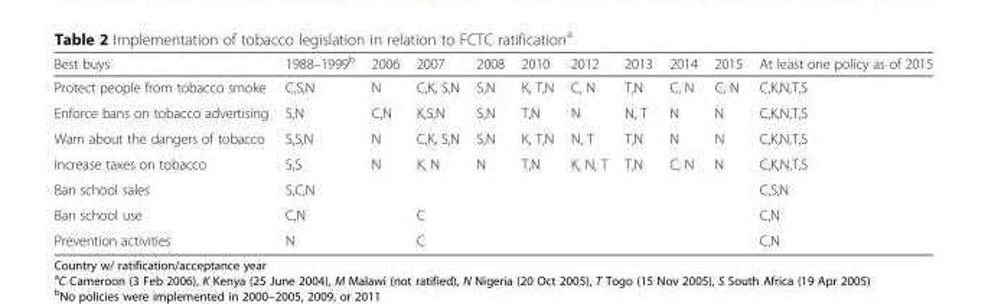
<table><thead><tr><td>Best buys</td><td>1988–1999<sup>b</sup></td><td>2006</td><td>2007</td><td>2008</td><td>2010</td><td>2012</td><td>2013</td><td>2014</td><td>2015</td><td>At least one policy as of 2015</td></tr></thead><tbody><tr><td>Protect people from tobacco smoke</td><td>C,S,N</td><td>N</td><td>C,K, S,N</td><td>S,N</td><td>K, T,N</td><td>C, N</td><td>T,N</td><td>C, N</td><td>C, N</td><td>C,K,N,T,S</td></tr><tr><td>Enforce bans on tobacco advertising</td><td>S,N</td><td>C,N</td><td>K,S,N</td><td>S,N</td><td>T,N</td><td>N</td><td>N, T</td><td>N</td><td>N</td><td>C,K,N,T,S</td></tr><tr><td>Warn about the dangers of tobacco</td><td>S,S,N</td><td>N</td><td>C,K, S,N</td><td>S,N</td><td>K, T,N</td><td>N, T</td><td>T,N</td><td>N</td><td>N</td><td>C,K,N,T,S</td></tr><tr><td>Increase taxes on tobacco</td><td>S,S</td><td>N</td><td>K, N</td><td>N</td><td>T,N</td><td>K, N, T</td><td>T,N</td><td>C, N</td><td>N</td><td>C,K,N,T,S</td></tr><tr><td>Ban school sales</td><td>S,C,N</td><td></td><td></td><td></td><td></td><td></td><td></td><td></td><td></td><td>C,S,N</td></tr><tr><td>Ban school use</td><td>C,N</td><td></td><td>C</td><td></td><td></td><td></td><td></td><td></td><td></td><td>C,N</td></tr><tr><td>Prevention activities</td><td>N</td><td></td><td>C</td><td></td><td></td><td></td><td></td><td></td><td></td><td>C,N</td></tr></tbody></table>